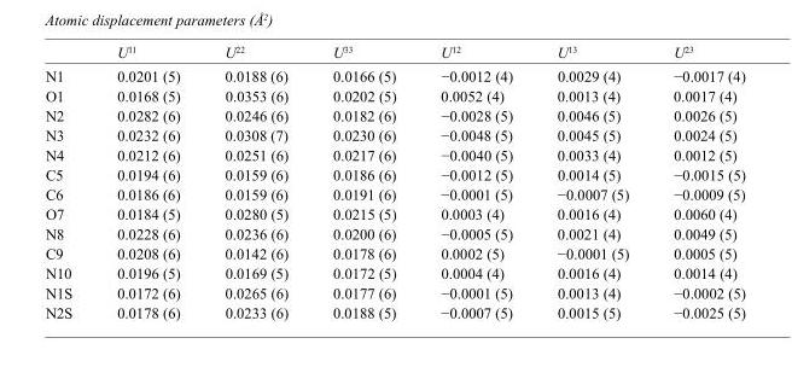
<table><thead><tr><td></td><td>U<sup>11</sup></td><td>U<sup>22</sup></td><td>U<sup>33</sup></td><td>U<sup>12</sup></td><td>U<sup>13</sup></td><td>U<sup>23</sup></td></tr></thead><tbody><tr><td>N1</td><td>0.0201 (5)</td><td>0.0188 (6)</td><td>0.0166 (5)</td><td>−0.0012 (4)</td><td>0.0029 (4)</td><td>−0.0017 (4)</td></tr><tr><td>O1</td><td>0.0168 (5)</td><td>0.0353 (6)</td><td>0.0202 (5)</td><td>0.0052 (4)</td><td>0.0013 (4)</td><td>0.0017 (4)</td></tr><tr><td>N2</td><td>0.0282 (6)</td><td>0.0246 (6)</td><td>0.0182 (6)</td><td>−0.0028 (5)</td><td>0.0046 (5)</td><td>0.0026 (5)</td></tr><tr><td>N3</td><td>0.0232 (6)</td><td>0.0308 (7)</td><td>0.0230 (6)</td><td>−0.0048 (5)</td><td>0.0045 (5)</td><td>0.0024 (5)</td></tr><tr><td>N4</td><td>0.0212 (6)</td><td>0.0251 (6)</td><td>0.0217 (6)</td><td>−0.0040 (5)</td><td>0.0033 (4)</td><td>0.0012 (5)</td></tr><tr><td>C5</td><td>0.0194 (6)</td><td>0.0159 (6)</td><td>0.0186 (6)</td><td>−0.0012 (5)</td><td>0.0014 (5)</td><td>−0.0015 (5)</td></tr><tr><td>C6</td><td>0.0186 (6)</td><td>0.0159 (6)</td><td>0.0191 (6)</td><td>−0.0001 (5)</td><td>−0.0007 (5)</td><td>−0.0009 (5)</td></tr><tr><td>O7</td><td>0.0184 (5)</td><td>0.0280 (5)</td><td>0.0215 (5)</td><td>0.0003 (4)</td><td>0.0016 (4)</td><td>0.0060 (4)</td></tr><tr><td>N8</td><td>0.0228 (6)</td><td>0.0236 (6)</td><td>0.0200 (6)</td><td>−0.0005 (5)</td><td>0.0021 (4)</td><td>0.0049 (5)</td></tr><tr><td>C9</td><td>0.0208 (6)</td><td>0.0142 (6)</td><td>0.0178 (6)</td><td>0.0002 (5)</td><td>−0.0001 (5)</td><td>0.0005 (5)</td></tr><tr><td>N10</td><td>0.0196 (5)</td><td>0.0169 (5)</td><td>0.0172 (5)</td><td>0.0004 (4)</td><td>0.0016 (4)</td><td>0.0014 (4)</td></tr><tr><td>N1S</td><td>0.0172 (6)</td><td>0.0265 (6)</td><td>0.0177 (6)</td><td>−0.0001 (5)</td><td>0.0013 (4)</td><td>−0.0002 (5)</td></tr><tr><td>N2S</td><td>0.0178 (6)</td><td>0.0233 (6)</td><td>0.0188 (5)</td><td>−0.0007 (5)</td><td>0.0015 (5)</td><td>−0.0025 (5)</td></tr></tbody></table>